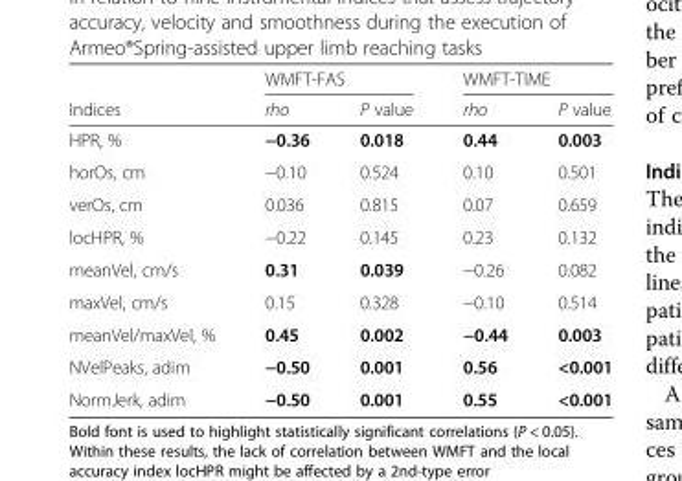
<table><thead><tr><td rowspan="2">Indices</td><td colspan="2">WMFT-FAS</td><td colspan="2">WMFT-TIME</td></tr><tr><td>rho</td><td>P value</td><td>rho</td><td>P value</td></tr></thead><tbody><tr><td>HPR, %</td><td>−0.36</td><td>0.018</td><td>0.44</td><td>0.003</td></tr><tr><td>horOs, cm</td><td>−0.10</td><td>0.524</td><td>0.10</td><td>0.501</td></tr><tr><td>verOs, cm</td><td>0.036</td><td>0.815</td><td>0.07</td><td>0.659</td></tr><tr><td>locHPR, %</td><td>−0.22</td><td>0.145</td><td>0.23</td><td>0.132</td></tr><tr><td>meanVel, cm/s</td><td>0.31</td><td>0.039</td><td>−0.26</td><td>0.082</td></tr><tr><td>maxVel, cm/s</td><td>0.15</td><td>0.328</td><td>−0.10</td><td>0.514</td></tr><tr><td>meanVel/maxVel, %</td><td>0.45</td><td>0.002</td><td>−0.44</td><td>0.003</td></tr><tr><td>NVelPeaks, adim</td><td>−0.50</td><td>0.001</td><td>0.56</td><td>&lt;0.001</td></tr><tr><td>NormJerk, adim</td><td>−0.50</td><td>0.001</td><td>0.55</td><td>&lt;0.001</td></tr></tbody></table>